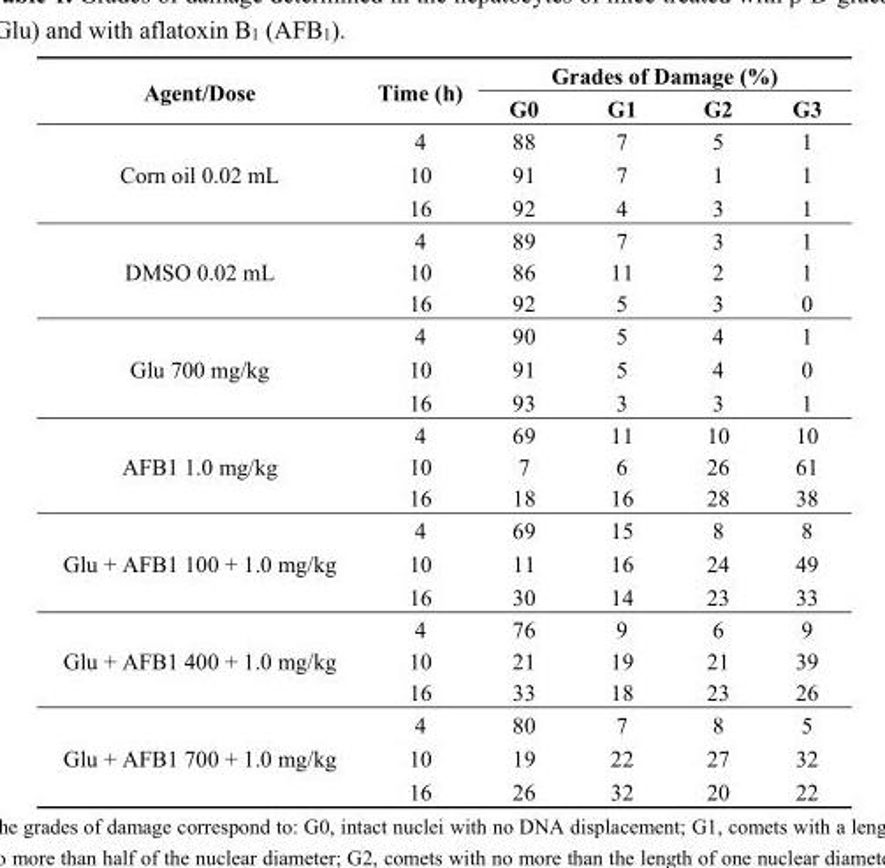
<table><thead><tr><td rowspan="2">Agent/Dose</td><td rowspan="2">Time (h)</td><td colspan="4">Grades of Damage (%)</td></tr><tr><td>G0</td><td>G1</td><td>G2</td><td>G3</td></tr></thead><tbody><tr><td rowspan="3">Corn oil 0.02 mL</td><td>4</td><td>88</td><td>7</td><td>5</td><td>1</td></tr><tr><td>10</td><td>91</td><td>7</td><td>1</td><td>1</td></tr><tr><td>16</td><td>92</td><td>4</td><td>3</td><td>1</td></tr><tr><td rowspan="3">DMSO 0.02 mL</td><td>4</td><td>89</td><td>7</td><td>3</td><td>1</td></tr><tr><td>10</td><td>86</td><td>11</td><td>2</td><td>1</td></tr><tr><td>16</td><td>92</td><td>5</td><td>3</td><td>0</td></tr><tr><td rowspan="3">Glu 700 mg/kg</td><td>4</td><td>90</td><td>5</td><td>4</td><td>1</td></tr><tr><td>10</td><td>91</td><td>5</td><td>4</td><td>0</td></tr><tr><td>16</td><td>93</td><td>3</td><td>3</td><td>1</td></tr><tr><td rowspan="3">AFB1 1.0 mg/kg</td><td>4</td><td>69</td><td>11</td><td>10</td><td>10</td></tr><tr><td>10</td><td>7</td><td>6</td><td>26</td><td>61</td></tr><tr><td>16</td><td>18</td><td>16</td><td>28</td><td>38</td></tr><tr><td rowspan="3">Glu + AFB1 100 + 1.0 mg/kg</td><td>4</td><td>69</td><td>15</td><td>8</td><td>8</td></tr><tr><td>10</td><td>11</td><td>16</td><td>24</td><td>49</td></tr><tr><td>16</td><td>30</td><td>14</td><td>23</td><td>33</td></tr><tr><td rowspan="3">Glu + AFB1 400 + 1.0 mg/kg</td><td>4</td><td>76</td><td>9</td><td>6</td><td>9</td></tr><tr><td>10</td><td>21</td><td>19</td><td>21</td><td>39</td></tr><tr><td>16</td><td>33</td><td>18</td><td>23</td><td>26</td></tr><tr><td rowspan="3">Glu + AFB1 700 + 1.0 mg/kg</td><td>4</td><td>80</td><td>7</td><td>8</td><td>5</td></tr><tr><td>10</td><td>19</td><td>22</td><td>27</td><td>32</td></tr><tr><td>16</td><td>26</td><td>32</td><td>20</td><td>22</td></tr></tbody></table>